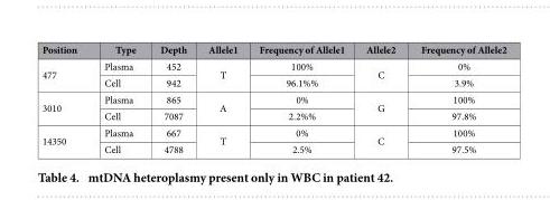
<table><thead><tr><td>Position</td><td>Type</td><td>Depth</td><td>Allele1</td><td>Frequency of Allele1</td><td>Allele2</td><td>Frequency of Allele2</td></tr></thead><tbody><tr><td rowspan="2">477</td><td>Plasma</td><td>452</td><td rowspan="2">T</td><td>100%</td><td rowspan="2">C</td><td>0%</td></tr><tr><td>Cell</td><td>942</td><td>96.1%%</td><td>3.9%</td></tr><tr><td rowspan="2">3010</td><td>Plasma</td><td>865</td><td rowspan="2">A</td><td>0%</td><td rowspan="2">G</td><td>100%</td></tr><tr><td>Cell</td><td>7087</td><td>2.2%%</td><td>97.8%</td></tr><tr><td rowspan="2">14350</td><td>Plasma</td><td>667</td><td rowspan="2">T</td><td>0%</td><td rowspan="2">C</td><td>100%</td></tr><tr><td>Cell</td><td>4788</td><td>2.5%</td><td>97.5%</td></tr></tbody></table>